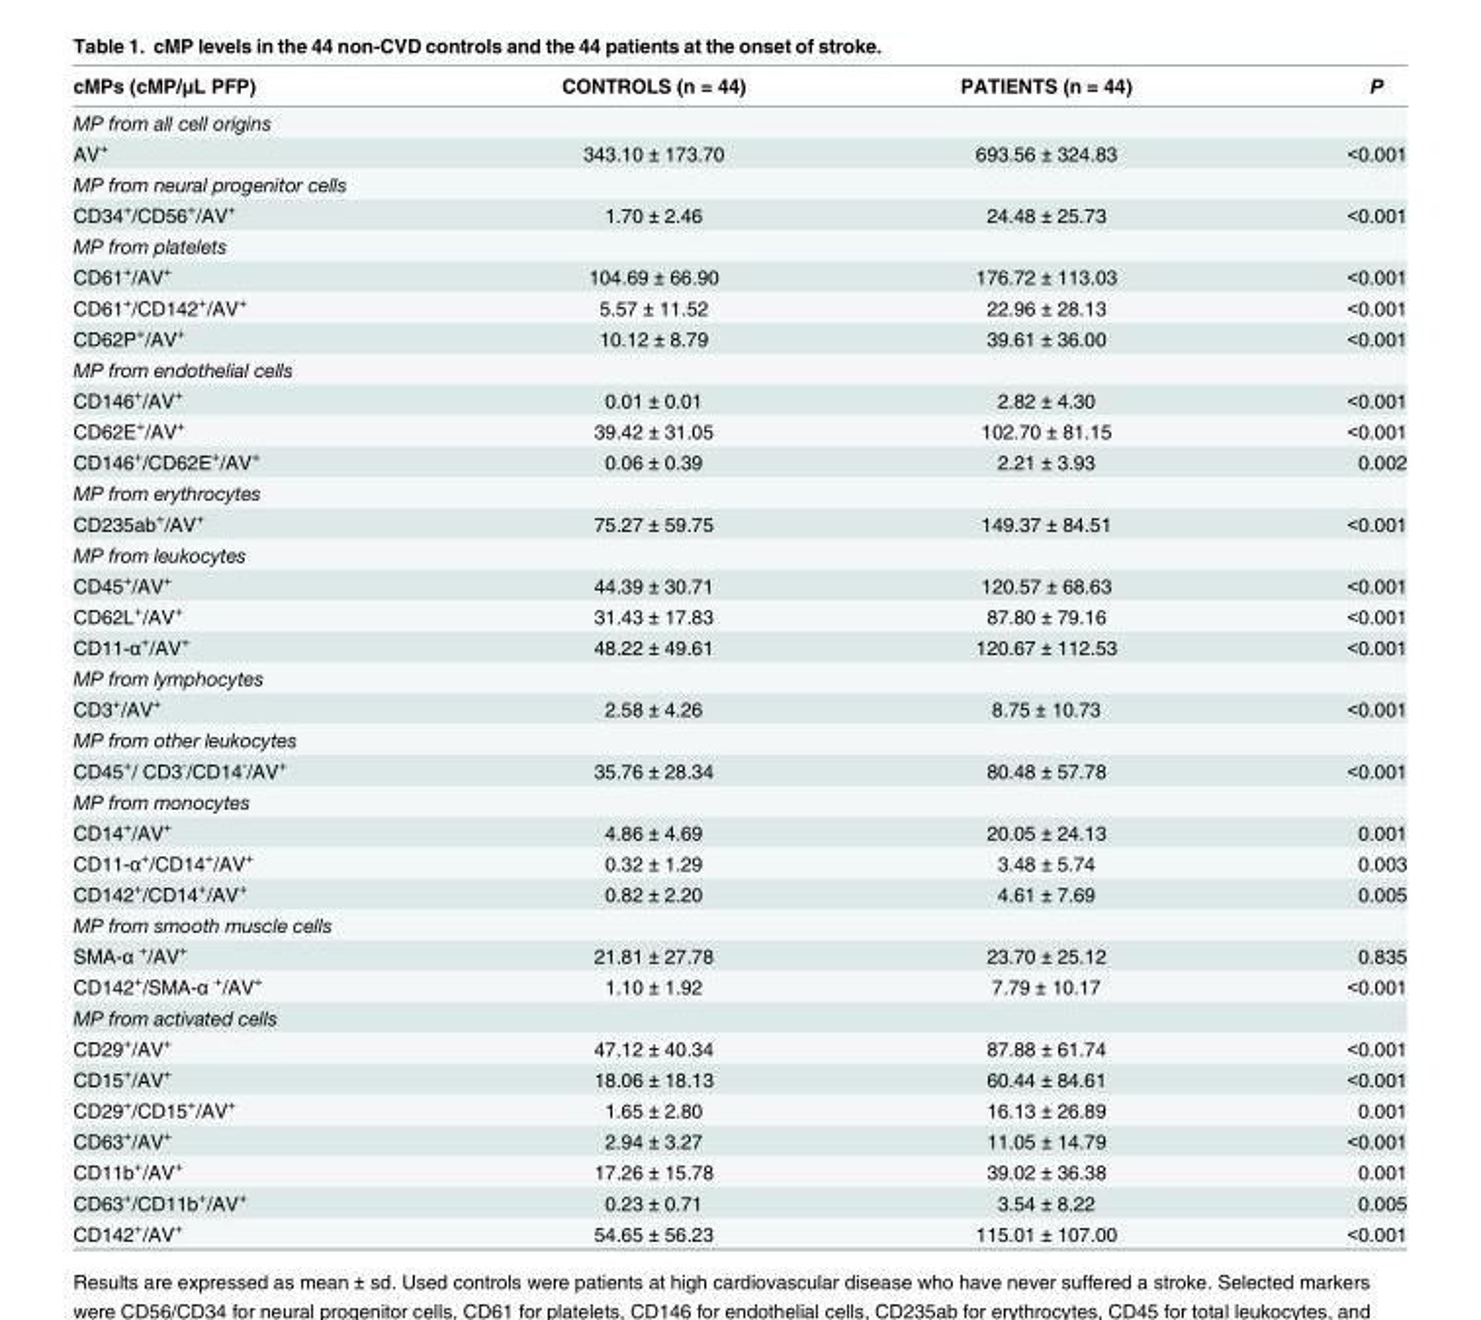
<table><thead><tr><td>cMPs (cMP/μL PFP)</td><td>CONTROLS (n = 44)</td><td>PATIENTS (n = 44)</td><td>P</td></tr></thead><tbody><tr><td colspan="4">MP from all cell origins</td></tr><tr><td>AV<sup>+</sup></td><td>343.10 ± 173.70</td><td>693.56 ± 324.83</td><td>&lt;0.001</td></tr><tr><td colspan="4">MP from neural progenitor cells</td></tr><tr><td>CD34<sup>+</sup>/CD56<sup>+</sup>/AV<sup>+</sup></td><td>1.70 ± 2.46</td><td>24.48 ± 25.73</td><td>&lt;0.001</td></tr><tr><td colspan="4">MP from platelets</td></tr><tr><td>CD61<sup>+</sup>/AV<sup>+</sup></td><td>104.69 ± 66.90</td><td>176.72 ± 113.03</td><td>&lt;0.001</td></tr><tr><td>CD61<sup>+</sup>/CD142<sup>+</sup>/AV<sup>+</sup></td><td>5.57 ± 11.52</td><td>22.96 ± 28.13</td><td>&lt;0.001</td></tr><tr><td>CD62P<sup>+</sup>/AV<sup>+</sup></td><td>10.12 ± 8.79</td><td>39.61 ± 36.00</td><td>&lt;0.001</td></tr><tr><td colspan="4">MP from endothelial cells</td></tr><tr><td>CD146<sup>+</sup>/AV<sup>+</sup></td><td>0.01 ± 0.01</td><td>2.82 ± 4.30</td><td>&lt;0.001</td></tr><tr><td>CD62E<sup>+</sup>/AV<sup>+</sup></td><td>39.42 ± 31.05</td><td>102.70 ± 81.15</td><td>&lt;0.001</td></tr><tr><td>CD146<sup>+</sup>/CD62E<sup>+</sup>/AV<sup>+</sup></td><td>0.06 ± 0.39</td><td>2.21 ± 3.93</td><td>0.002</td></tr><tr><td colspan="4">MP from erythrocytes</td></tr><tr><td>CD235ab<sup>+</sup>/AV<sup>+</sup></td><td>75.27 ± 59.75</td><td>149.37 ± 84.51</td><td>&lt;0.001</td></tr><tr><td colspan="4">MP from leukocytes</td></tr><tr><td>CD45<sup>+</sup>/AV<sup>+</sup></td><td>44.39 ± 30.71</td><td>120.57 ± 68.63</td><td>&lt;0.001</td></tr><tr><td>CD62L<sup>+</sup>/AV<sup>+</sup></td><td>31.43 ± 17.83</td><td>87.80 ± 79.16</td><td>&lt;0.001</td></tr><tr><td>CD11-α<sup>+</sup>/AV<sup>+</sup></td><td>48.22 ± 49.61</td><td>120.67 ± 112.53</td><td>&lt;0.001</td></tr><tr><td colspan="4">MP from lymphocytes</td></tr><tr><td>CD3<sup>+</sup>/AV<sup>+</sup></td><td>2.58 ± 4.26</td><td>8.75 ± 10.73</td><td>&lt;0.001</td></tr><tr><td colspan="4">MP from other leukocytes</td></tr><tr><td>CD45<sup>+</sup>/ CD3<sup>-</sup>/CD14<sup>-</sup>/AV<sup>+</sup></td><td>35.76 ± 28.34</td><td>80.48 ± 57.78</td><td>&lt;0.001</td></tr><tr><td colspan="4">MP from monocytes</td></tr><tr><td>CD14<sup>+</sup>/AV<sup>+</sup></td><td>4.86 ± 4.69</td><td>20.05 ± 24.13</td><td>0.001</td></tr><tr><td>CD11-α<sup>+</sup>/CD14<sup>+</sup>/AV<sup>+</sup></td><td>0.32 ± 1.29</td><td>3.48 ± 5.74</td><td>0.003</td></tr><tr><td>CD142<sup>+</sup>/CD14<sup>+</sup>/AV<sup>+</sup></td><td>0.82 ± 2.20</td><td>4.61 ± 7.69</td><td>0.005</td></tr><tr><td colspan="4">MP from smooth muscle cells</td></tr><tr><td>SMA-α <sup>+</sup>/AV<sup>+</sup></td><td>21.81 ± 27.78</td><td>23.70 ± 25.12</td><td>0.835</td></tr><tr><td>CD142<sup>+</sup>/SMA-α <sup>+</sup>/AV<sup>+</sup></td><td>1.10 ± 1.92</td><td>7.79 ± 10.17</td><td>&lt;0.001</td></tr><tr><td colspan="4">MP from activated cells</td></tr><tr><td>CD29<sup>+</sup>/AV<sup>+</sup></td><td>47.12 ± 40.34</td><td>87.88 ± 61.74</td><td>&lt;0.001</td></tr><tr><td>CD15<sup>+</sup>/AV<sup>+</sup></td><td>18.06 ± 18.13</td><td>60.44 ± 84.61</td><td>&lt;0.001</td></tr><tr><td>CD29<sup>+</sup>/CD15<sup>+</sup>/AV<sup>+</sup></td><td>1.65 ± 2.80</td><td>16.13 ± 26.89</td><td>0.001</td></tr><tr><td>CD63<sup>+</sup>/AV<sup>+</sup></td><td>2.94 ± 3.27</td><td>11.05 ± 14.79</td><td>&lt;0.001</td></tr><tr><td>CD11b<sup>+</sup>/AV<sup>+</sup></td><td>17.26 ± 15.78</td><td>39.02 ± 36.38</td><td>0.001</td></tr><tr><td>CD63<sup>+</sup>/CD11b<sup>+</sup>/AV<sup>+</sup></td><td>0.23 ± 0.71</td><td>3.54 ± 8.22</td><td>0.005</td></tr><tr><td>CD142<sup>+</sup>/AV<sup>+</sup></td><td>54.65 ± 56.23</td><td>115.01 ± 107.00</td><td>&lt;0.001</td></tr></tbody></table>